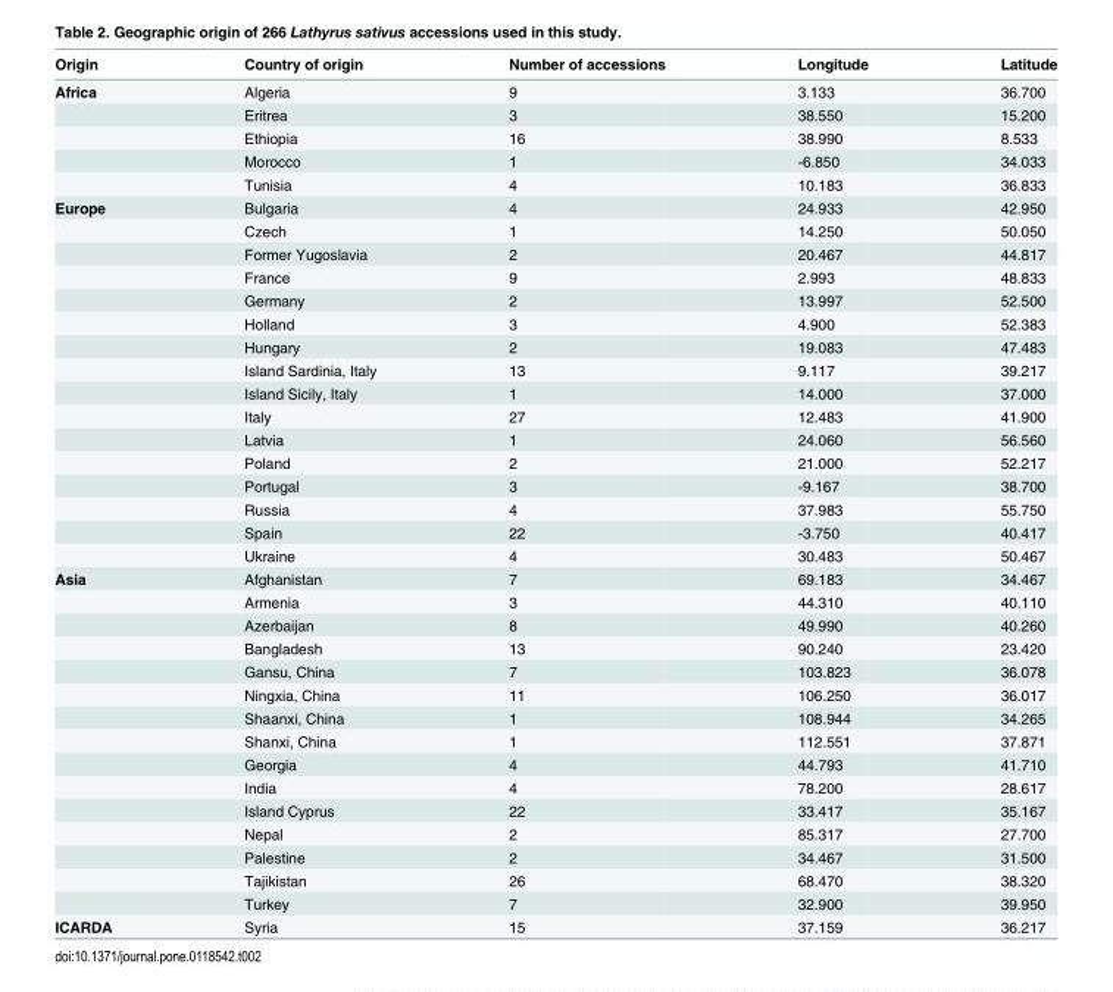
<table><thead><tr><td>Origin</td><td>Country of origin</td><td>Number of accessions</td><td>Longitude</td><td>Latitude</td></tr></thead><tbody><tr><td rowspan="5">Africa</td><td>Algeria</td><td>9</td><td>3.133</td><td>36.700</td></tr><tr><td>Eritrea</td><td>3</td><td>38.550</td><td>15.200</td></tr><tr><td>Ethiopia</td><td>16</td><td>38.990</td><td>8.533</td></tr><tr><td>Morocco</td><td>1</td><td>-6.850</td><td>34.033</td></tr><tr><td>Tunisia</td><td>4</td><td>10.183</td><td>36.833</td></tr><tr><td rowspan="16">Europe</td><td>Bulgaria</td><td>4</td><td>24.933</td><td>42.950</td></tr><tr><td>Czech</td><td>1</td><td>14.250</td><td>50.050</td></tr><tr><td>Former Yugoslavia</td><td>2</td><td>20.467</td><td>44.817</td></tr><tr><td>France</td><td>9</td><td>2.993</td><td>48.833</td></tr><tr><td>Germany</td><td>2</td><td>13.997</td><td>52.500</td></tr><tr><td>Holland</td><td>3</td><td>4.900</td><td>52.383</td></tr><tr><td>Hungary</td><td>2</td><td>19.083</td><td>47.483</td></tr><tr><td>Island Sardinia, Italy</td><td>13</td><td>9.117</td><td>39.217</td></tr><tr><td>Island Sicily, Italy</td><td>1</td><td>14.000</td><td>37.000</td></tr><tr><td>Italy</td><td>27</td><td>12.483</td><td>41.900</td></tr><tr><td>Latvia</td><td>1</td><td>24.060</td><td>56.560</td></tr><tr><td>Poland</td><td>2</td><td>21.000</td><td>52.217</td></tr><tr><td>Portugal</td><td>3</td><td>-9.167</td><td>38.700</td></tr><tr><td>Russia</td><td>4</td><td>37.983</td><td>55.750</td></tr><tr><td>Spain</td><td>22</td><td>-3.750</td><td>40.417</td></tr><tr><td>Ukraine</td><td>4</td><td>30.483</td><td>50.467</td></tr><tr><td rowspan="15">Asia</td><td>Afghanistan</td><td>7</td><td>69.183</td><td>34.467</td></tr><tr><td>Armenia</td><td>3</td><td>44.310</td><td>40.110</td></tr><tr><td>Azerbaijan</td><td>8</td><td>49.990</td><td>40.260</td></tr><tr><td>Bangladesh</td><td>13</td><td>90.240</td><td>23.420</td></tr><tr><td>Gansu, China</td><td>7</td><td>103.823</td><td>36.078</td></tr><tr><td>Ningxia, China</td><td>11</td><td>106.250</td><td>36.017</td></tr><tr><td>Shaanxi, China</td><td>1</td><td>108.944</td><td>34.265</td></tr><tr><td>Shanxi, China</td><td>1</td><td>112.551</td><td>37.871</td></tr><tr><td>Georgia</td><td>4</td><td>44.793</td><td>41.710</td></tr><tr><td>India</td><td>4</td><td>78.200</td><td>28.617</td></tr><tr><td>Island Cyprus</td><td>22</td><td>33.417</td><td>35.167</td></tr><tr><td>Nepal</td><td>2</td><td>85.317</td><td>27.700</td></tr><tr><td>Palestine</td><td>2</td><td>34.467</td><td>31.500</td></tr><tr><td>Tajikistan</td><td>26</td><td>68.470</td><td>38.320</td></tr><tr><td>Turkey</td><td>7</td><td>32.900</td><td>39.950</td></tr><tr><td>ICARDA</td><td>Syria</td><td>15</td><td>37.159</td><td>36.217</td></tr></tbody></table>